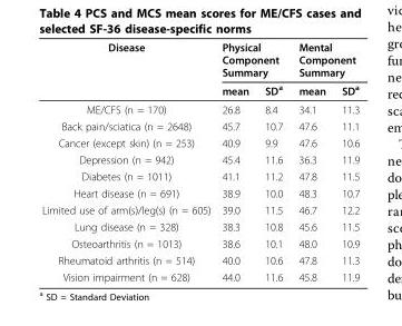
<table><thead><tr><td rowspan="2">Disease</td><td colspan="2">Physical Component Summary</td><td colspan="2">Mental Component Summary</td></tr><tr><td>mean</td><td>SD<sup>a</sup></td><td>mean</td><td>SD<sup>a</sup></td></tr></thead><tbody><tr><td>ME/CFS (n = 170)</td><td>26.8</td><td>8.4</td><td>34.1</td><td>11.3</td></tr><tr><td>Back pain/sciatica (n = 2648)</td><td>45.7</td><td>10.7</td><td>47.6</td><td>11.1</td></tr><tr><td>Cancer (except skin) (n = 253)</td><td>40.9</td><td>9.9</td><td>47.6</td><td>10.6</td></tr><tr><td>Depression (n = 942)</td><td>45.4</td><td>11.6</td><td>36.3</td><td>11.9</td></tr><tr><td>Diabetes (n = 1011)</td><td>41.1</td><td>11.2</td><td>47.8</td><td>11.5</td></tr><tr><td>Heart disease (n = 691)</td><td>38.9</td><td>10.0</td><td>48.3</td><td>10.7</td></tr><tr><td>Limited use of arm(s)/leg(s) (n = 605)</td><td>39.0</td><td>11.5</td><td>46.7</td><td>12.2</td></tr><tr><td>Lung disease (n = 328)</td><td>38.3</td><td>10.8</td><td>45.6</td><td>11.5</td></tr><tr><td>Osteoarthritis (n = 1013)</td><td>38.6</td><td>10.1</td><td>48.0</td><td>10.9</td></tr><tr><td>Rheumatoid arthritis (n = 514)</td><td>40.0</td><td>10.6</td><td>47.8</td><td>11.3</td></tr><tr><td>Vision impairment (n = 628)</td><td>44.0</td><td>11.6</td><td>45.8</td><td>11.9</td></tr></tbody></table>